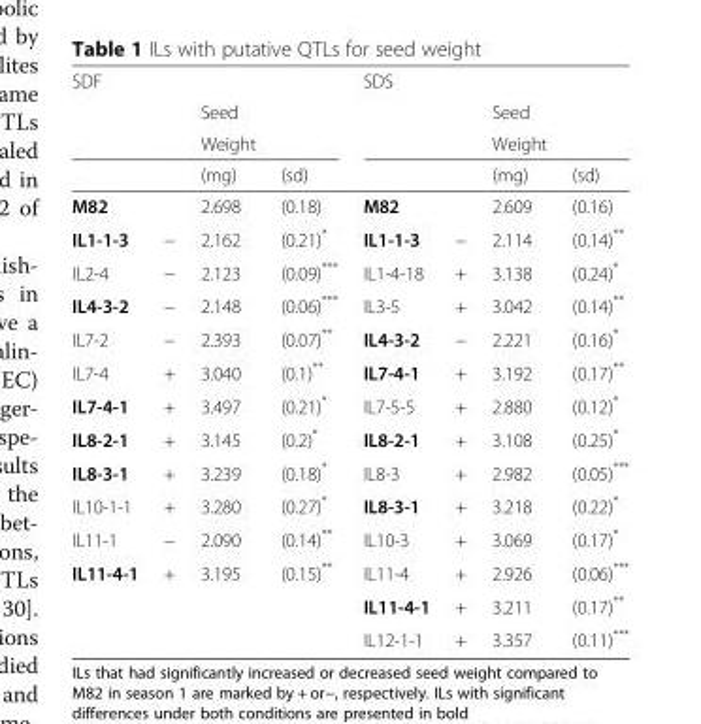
<table><thead><tr><td rowspan="4">SDF</td><td rowspan="4"></td><td rowspan="4">Seed Weight (mg)</td><td rowspan="4">(sd)</td><td rowspan="4">SDS</td><td rowspan="4"></td><td rowspan="4">Seed Weight (mg)</td><td rowspan="4">(sd)</td></tr><tr></tr><tr></tr><tr></tr></thead><tbody><tr><td>M82</td><td></td><td>2.698</td><td>(0.18)</td><td>M82</td><td></td><td>2.609</td><td>(0.16)</td></tr><tr><td>IL1-1-3</td><td>−</td><td>2.162</td><td>(0.21)*</td><td>IL1-1-3</td><td>−</td><td>2.114</td><td>(0.14)**</td></tr><tr><td>IL2-4</td><td>−</td><td>2.123</td><td>(0.09)***</td><td>IL1-4-18</td><td>+</td><td>3.138</td><td>(0.24)*</td></tr><tr><td>IL4-3-2</td><td>−</td><td>2.148</td><td>(0.06)***</td><td>IL3-5</td><td>+</td><td>3.042</td><td>(0.14)**</td></tr><tr><td>IL7-2</td><td>−</td><td>2.393</td><td>(0.07)**</td><td>IL4-3-2</td><td>−</td><td>2.221</td><td>(0.16)*</td></tr><tr><td>IL7-4</td><td>+</td><td>3.040</td><td>(0.1)**</td><td>IL7-4-1</td><td>+</td><td>3.192</td><td>(0.17)**</td></tr><tr><td>IL7-4-1</td><td>+</td><td>3.497</td><td>(0.21)*</td><td>IL7-5-5</td><td>+</td><td>2.880</td><td>(0.12)*</td></tr><tr><td>IL8-2-1</td><td>+</td><td>3.145</td><td>(0.2)*</td><td>IL8-2-1</td><td>+</td><td>3.108</td><td>(0.25)*</td></tr><tr><td>IL8-3-1</td><td>+</td><td>3.239</td><td>(0.18)*</td><td>IL8-3</td><td>+</td><td>2.982</td><td>(0.05)***</td></tr><tr><td>IL10-1-1</td><td>+</td><td>3.280</td><td>(0.27)*</td><td>IL8-3-1</td><td>+</td><td>3.218</td><td>(0.22)*</td></tr><tr><td>IL11-1</td><td>−</td><td>2.090</td><td>(0.14)**</td><td>IL10-3</td><td>+</td><td>3.069</td><td>(0.17)*</td></tr><tr><td rowspan="3">IL11-4-1</td><td>+</td><td>3.195</td><td>(0.15)**</td><td>IL11-4</td><td>+</td><td>2.926</td><td>(0.06)***</td></tr><tr><td></td><td></td><td></td><td>IL11-4-1</td><td>+</td><td>3.211</td><td>(0.17)**</td></tr><tr><td></td><td></td><td></td><td>IL12-1-1</td><td>+</td><td>3.357</td><td>(0.11)***</td></tr></tbody></table>